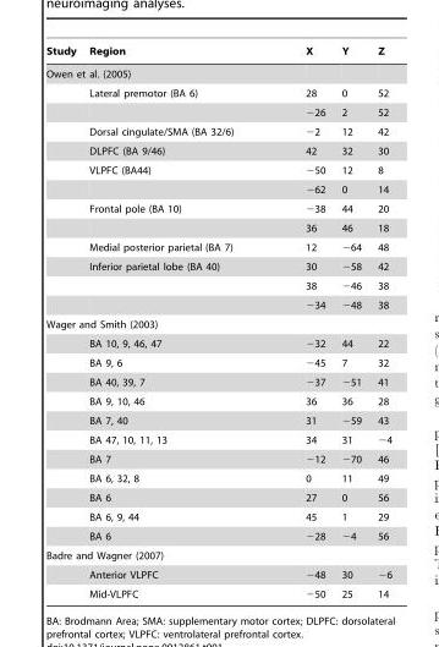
<table><thead><tr><td>Study</td><td>Region</td><td>X</td><td>Y</td><td>Z</td></tr></thead><tbody><tr><td colspan="5">Owen et al. (2005)</td></tr><tr><td></td><td>Lateral premotor (BA 6)</td><td>28</td><td>0</td><td>52</td></tr><tr><td></td><td></td><td>−26</td><td>2</td><td>52</td></tr><tr><td></td><td>Dorsal cingulate/SMA (BA 32/6)</td><td>−2</td><td>12</td><td>42</td></tr><tr><td></td><td>DLPFC (BA 9/46)</td><td>42</td><td>32</td><td>30</td></tr><tr><td></td><td>VLPFC (BA44)</td><td>−50</td><td>12</td><td>8</td></tr><tr><td></td><td></td><td>−62</td><td>0</td><td>14</td></tr><tr><td></td><td>Frontal pole (BA 10)</td><td>−38</td><td>44</td><td>20</td></tr><tr><td></td><td></td><td>36</td><td>46</td><td>18</td></tr><tr><td></td><td>Medial posterior parietal (BA 7)</td><td>12</td><td>−64</td><td>48</td></tr><tr><td></td><td>Inferior parietal lobe (BA 40)</td><td>30</td><td>−58</td><td>42</td></tr><tr><td></td><td></td><td>38</td><td>−46</td><td>38</td></tr><tr><td></td><td></td><td>−34</td><td>−48</td><td>38</td></tr><tr><td colspan="5">Wager and Smith (2003)</td></tr><tr><td></td><td>BA 10, 9, 46, 47</td><td>−32</td><td>44</td><td>22</td></tr><tr><td></td><td>BA 9, 6</td><td>−45</td><td>7</td><td>32</td></tr><tr><td></td><td>BA 40, 39, 7</td><td>−37</td><td>−51</td><td>41</td></tr><tr><td></td><td>BA 9, 10, 46</td><td>36</td><td>36</td><td>28</td></tr><tr><td></td><td>BA 7, 40</td><td>31</td><td>−59</td><td>43</td></tr><tr><td></td><td>BA 47, 10, 11, 13</td><td>34</td><td>31</td><td>−4</td></tr><tr><td></td><td>BA 7</td><td>−12</td><td>−70</td><td>46</td></tr><tr><td></td><td>BA 6, 32, 8</td><td>0</td><td>11</td><td>49</td></tr><tr><td></td><td>BA 6</td><td>27</td><td>0</td><td>56</td></tr><tr><td></td><td>BA 6, 9, 44</td><td>45</td><td>1</td><td>29</td></tr><tr><td></td><td>BA 6</td><td>−28</td><td>−4</td><td>56</td></tr><tr><td colspan="5">Badre and Wagner (2007)</td></tr><tr><td></td><td>Anterior VLPFC</td><td>−48</td><td>30</td><td>−6</td></tr><tr><td></td><td>Mid-VLPFC</td><td>−50</td><td>25</td><td>14</td></tr></tbody></table>